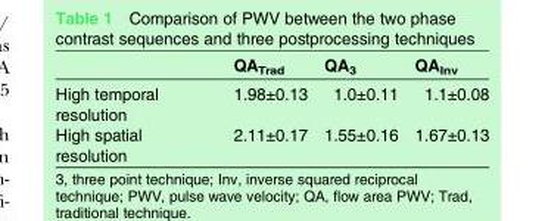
<table><thead><tr><td></td><td>QA<sub>Trad</sub></td><td>QA<sub>3</sub></td><td>QA<sub>Inv</sub></td></tr></thead><tbody><tr><td>High temporal resolution</td><td>1.98±0.13</td><td>1.0±0.11</td><td>1.1±0.08</td></tr><tr><td>High spatial resolution</td><td>2.11±0.17</td><td>1.55±0.16</td><td>1.67±0.13</td></tr></tbody></table>